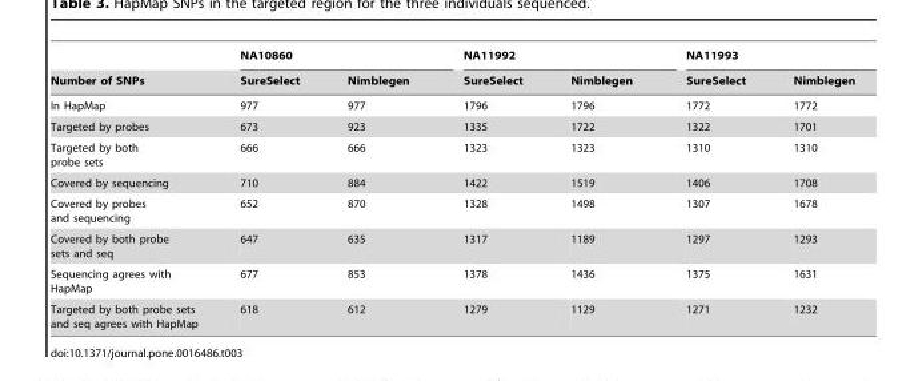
<table><thead><tr><td rowspan="2">Number of SNPs</td><td colspan="2">NA10860</td><td colspan="2">NA11992</td><td colspan="2">NA11993</td></tr><tr><td>SureSelect</td><td>Nimblegen</td><td>SureSelect</td><td>Nimblegen</td><td>SureSelect</td><td>Nimblegen</td></tr></thead><tbody><tr><td>In HapMap</td><td>977</td><td>977</td><td>1796</td><td>1796</td><td>1772</td><td>1772</td></tr><tr><td>Targeted by probes</td><td>673</td><td>923</td><td>1335</td><td>1722</td><td>1322</td><td>1701</td></tr><tr><td>Targeted by both probe sets</td><td>666</td><td>666</td><td>1323</td><td>1323</td><td>1310</td><td>1310</td></tr><tr><td>Covered by sequencing</td><td>710</td><td>884</td><td>1422</td><td>1519</td><td>1406</td><td>1708</td></tr><tr><td>Covered by probes and sequencing</td><td>652</td><td>870</td><td>1328</td><td>1498</td><td>1307</td><td>1678</td></tr><tr><td>Covered by both probe sets and seq</td><td>647</td><td>635</td><td>1317</td><td>1189</td><td>1297</td><td>1293</td></tr><tr><td>Sequencing agrees with HapMap</td><td>677</td><td>853</td><td>1378</td><td>1436</td><td>1375</td><td>1631</td></tr><tr><td>Targeted by both probe sets and seq agrees with HapMap</td><td>618</td><td>612</td><td>1279</td><td>1129</td><td>1271</td><td>1232</td></tr></tbody></table>